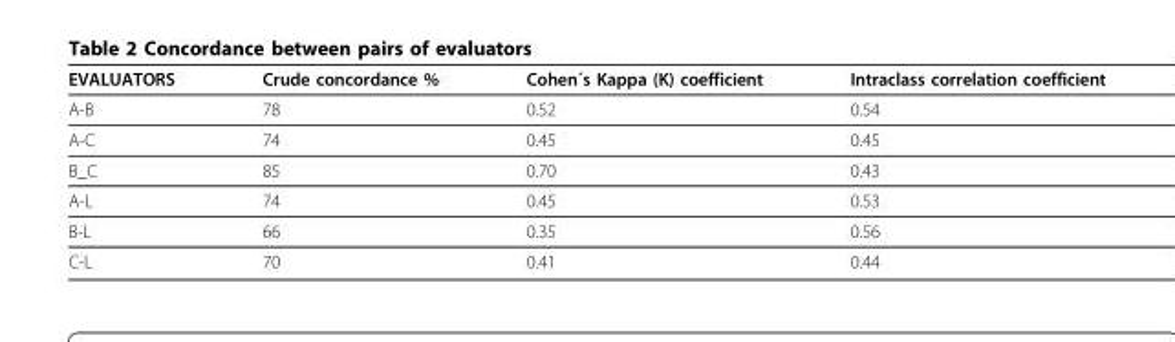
<table><thead><tr><td>EVALUATORS</td><td>Crude concordance %</td><td>Cohen´s Kappa (K) coefficient</td><td>Intraclass correlation coefficient</td></tr></thead><tbody><tr><td>A-B</td><td>78</td><td>0.52</td><td>0.54</td></tr><tr><td>A-C</td><td>74</td><td>0.45</td><td>0.45</td></tr><tr><td>B_C</td><td>85</td><td>0.70</td><td>0.43</td></tr><tr><td>A-L</td><td>74</td><td>0.45</td><td>0.53</td></tr><tr><td>B-L</td><td>66</td><td>0.35</td><td>0.56</td></tr><tr><td>C-L</td><td>70</td><td>0.41</td><td>0.44</td></tr></tbody></table>